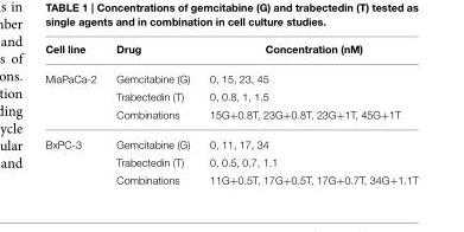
<table><thead><tr><td>Cell line</td><td>Drug</td><td>Concentration (nM)</td></tr></thead><tbody><tr><td rowspan="3">MiaPaCa-2</td><td>Gemcitabine (G)</td><td>0, 15, 23, 45</td></tr><tr><td>Trabectedin (T)</td><td>0, 0.8, 1, 1.5</td></tr><tr><td>Combinations</td><td>15G+0.8T, 23G+0.8T, 23G+1T, 45G+1T</td></tr><tr><td rowspan="3">BxPC-3</td><td>Gemcitabine (G)</td><td>0, 11, 17, 34</td></tr><tr><td>Trabectedin (T)</td><td>0, 0.5, 0.7, 1.1</td></tr><tr><td>Combinations</td><td>11G+0.5T, 17G+0.5T, 17G+0.7T, 34G+1.1T</td></tr></tbody></table>